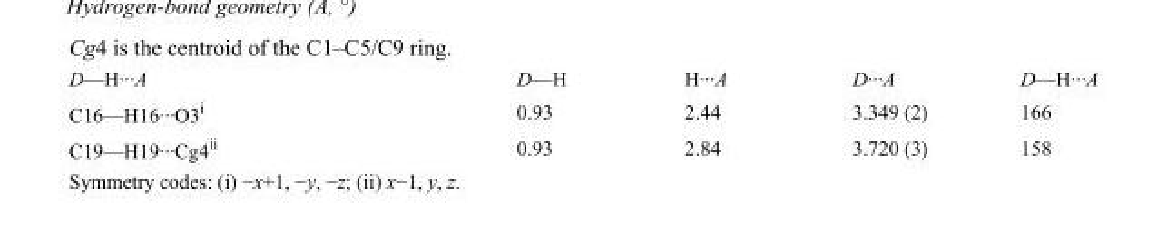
<table><tbody><tr><td>D—H···A</td><td>D—H</td><td>H···A</td><td>D···A</td><td>D—H···A</td></tr><tr><td>C16—H16···O3<sup>i</sup></td><td>0.93</td><td>2.44</td><td>3.349 (2)</td><td>166</td></tr><tr><td>C19—H19···Cg4<sup>ii</sup></td><td>0.93</td><td>2.84</td><td>3.720 (3)</td><td>158</td></tr></tbody></table>